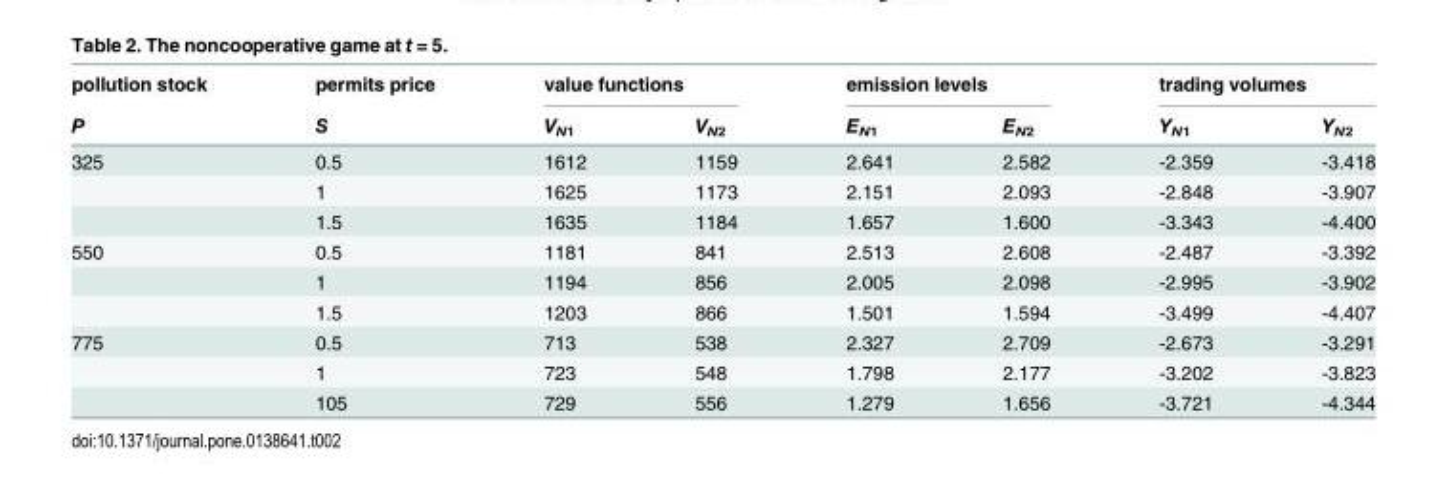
<table><thead><tr><td rowspan="2">pollution stock P</td><td rowspan="2">permits price S</td><td colspan="2">value functions</td><td colspan="2">emission levels</td><td colspan="2">trading volumes</td></tr><tr><td>V<sub>N1</sub></td><td>V<sub>N2</sub></td><td>E<sub>N1</sub></td><td>E<sub>N2</sub></td><td>Y<sub>N1</sub></td><td>Y<sub>N2</sub></td></tr></thead><tbody><tr><td rowspan="3">325</td><td>0.5</td><td>1612</td><td>1159</td><td>2.641</td><td>2.582</td><td>-2.359</td><td>-3.418</td></tr><tr><td>1</td><td>1625</td><td>1173</td><td>2.151</td><td>2.093</td><td>-2.848</td><td>-3.907</td></tr><tr><td>1.5</td><td>1635</td><td>1184</td><td>1.657</td><td>1.600</td><td>-3.343</td><td>-4.400</td></tr><tr><td rowspan="3">550</td><td>0.5</td><td>1181</td><td>841</td><td>2.513</td><td>2.608</td><td>-2.487</td><td>-3.392</td></tr><tr><td>1</td><td>1194</td><td>856</td><td>2.005</td><td>2.098</td><td>-2.995</td><td>-3.902</td></tr><tr><td>1.5</td><td>1203</td><td>866</td><td>1.501</td><td>1.594</td><td>-3.499</td><td>-4.407</td></tr><tr><td rowspan="3">775</td><td>0.5</td><td>713</td><td>538</td><td>2.327</td><td>2.709</td><td>-2.673</td><td>-3.291</td></tr><tr><td>1</td><td>723</td><td>548</td><td>1.798</td><td>2.177</td><td>-3.202</td><td>-3.823</td></tr><tr><td>105</td><td>729</td><td>556</td><td>1.279</td><td>1.656</td><td>-3.721</td><td>-4.344</td></tr></tbody></table>